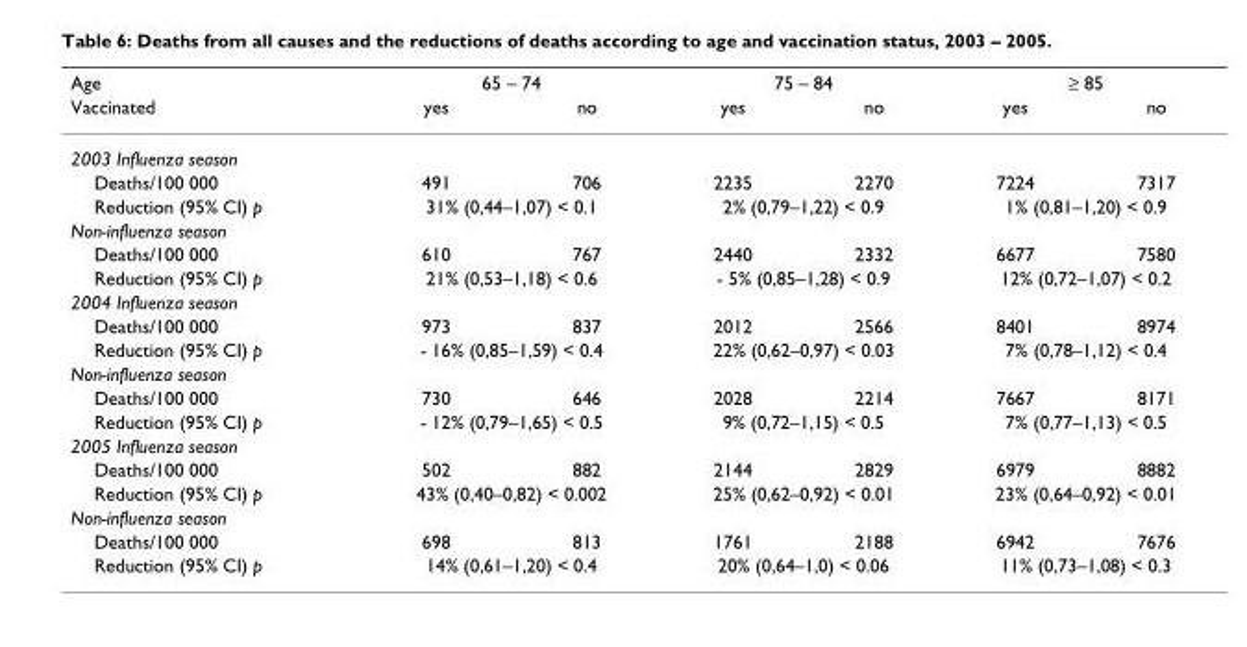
<table><thead><tr><td rowspan="2">Age Vaccinated</td><td colspan="2">65 – 74</td><td colspan="2">75 – 84</td><td colspan="2">≥ 85</td></tr><tr><td>yes</td><td>no</td><td>yes</td><td>no</td><td>yes</td><td>no</td></tr></thead><tbody><tr><td colspan="7">2003 Influenza season</td></tr><tr><td>Deaths/100 000</td><td>491</td><td>706</td><td>2235</td><td>2270</td><td>7224</td><td>7317</td></tr><tr><td>Reduction (95% CI) p</td><td colspan="2">31% (0,44–1,07) &lt; 0.1</td><td colspan="2">2% (0,79–1,22) &lt; 0.9</td><td colspan="2">1% (0,81–1,20) &lt; 0.9</td></tr><tr><td colspan="7">Non-influenza season</td></tr><tr><td>Deaths/100 000</td><td>610</td><td>767</td><td>2440</td><td>2332</td><td>6677</td><td>7580</td></tr><tr><td>Reduction (95% CI) p</td><td colspan="2">21% (0,53–1,18) &lt; 0.6</td><td colspan="2">- 5% (0,85–1,28) &lt; 0.9</td><td colspan="2">12% (0,72–1,07) &lt; 0.2</td></tr><tr><td colspan="7">2004 Influenza season</td></tr><tr><td>Deaths/100 000</td><td>973</td><td>837</td><td>2012</td><td>2566</td><td>8401</td><td>8974</td></tr><tr><td>Reduction (95% CI) p</td><td colspan="2">- 16% (0,85–1,59) &lt; 0.4</td><td colspan="2">22% (0,62–0,97) &lt; 0.03</td><td colspan="2">7% (0,78–1,12) &lt; 0.4</td></tr><tr><td colspan="7">Non-influenza season</td></tr><tr><td>Deaths/100 000</td><td>730</td><td>646</td><td>2028</td><td>2214</td><td>7667</td><td>8171</td></tr><tr><td>Reduction (95% CI) p</td><td colspan="2">- 12% (0,79–1,65) &lt; 0.5</td><td colspan="2">9% (0,72–1,15) &lt; 0.5</td><td colspan="2">7% (0,77–1,13) &lt; 0.5</td></tr><tr><td colspan="7">2005 Influenza season</td></tr><tr><td>Deaths/100 000</td><td>502</td><td>882</td><td>2144</td><td>2829</td><td>6979</td><td>8882</td></tr><tr><td>Reduction (95% CI) p</td><td colspan="2">43% (0,40–0,82) &lt; 0.002</td><td colspan="2">25% (0,62–0,92) &lt; 0.01</td><td colspan="2">23% (0,64–0,92) &lt; 0.01</td></tr><tr><td colspan="7">Non-influenza season</td></tr><tr><td>Deaths/100 000</td><td>698</td><td>813</td><td>1761</td><td>2188</td><td>6942</td><td>7676</td></tr><tr><td>Reduction (95% CI) p</td><td colspan="2">14% (0,61–1,20) &lt; 0.4</td><td colspan="2">20% (0,64–1,0) &lt; 0.06</td><td colspan="2">11% (0,73–1,08) &lt; 0.3</td></tr></tbody></table>